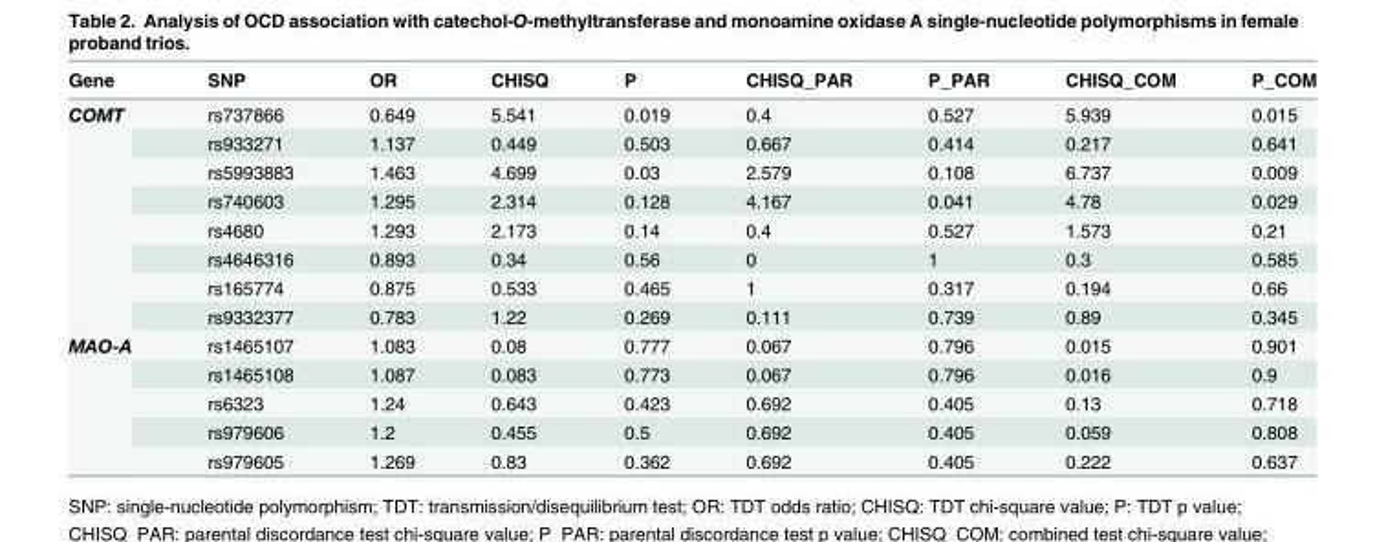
<table><thead><tr><td>Gene</td><td>SNP</td><td>OR</td><td>CHISQ</td><td>P</td><td>CHISQ_PAR</td><td>P_PAR</td><td>CHISQ_COM</td><td>P_COM</td></tr></thead><tbody><tr><td rowspan="8">COMT</td><td>rs737866</td><td>0.649</td><td>5.541</td><td>0.019</td><td>0.4</td><td>0.527</td><td>5.939</td><td>0.015</td></tr><tr><td>rs933271</td><td>1.137</td><td>0.449</td><td>0.503</td><td>0.667</td><td>0.414</td><td>0.217</td><td>0.641</td></tr><tr><td>rs5993883</td><td>1.463</td><td>4.699</td><td>0.03</td><td>2.579</td><td>0.108</td><td>6.737</td><td>0.009</td></tr><tr><td>rs740603</td><td>1.295</td><td>2.314</td><td>0.128</td><td>4.167</td><td>0.041</td><td>4.78</td><td>0.029</td></tr><tr><td>rs4680</td><td>1.293</td><td>2.173</td><td>0.14</td><td>0.4</td><td>0.527</td><td>1.573</td><td>0.21</td></tr><tr><td>rs4646316</td><td>0.893</td><td>0.34</td><td>0.56</td><td>0</td><td>1</td><td>0.3</td><td>0.585</td></tr><tr><td>rs165774</td><td>0.875</td><td>0.533</td><td>0.465</td><td>1</td><td>0.317</td><td>0.194</td><td>0.66</td></tr><tr><td>rs9332377</td><td>0.783</td><td>1.22</td><td>0.269</td><td>0.111</td><td>0.739</td><td>0.89</td><td>0.345</td></tr><tr><td rowspan="5">MAO-A</td><td>rs1465107</td><td>1.083</td><td>0.08</td><td>0.777</td><td>0.067</td><td>0.796</td><td>0.015</td><td>0.901</td></tr><tr><td>rs1465108</td><td>1.087</td><td>0.083</td><td>0.773</td><td>0.067</td><td>0.796</td><td>0.016</td><td>0.9</td></tr><tr><td>rs6323</td><td>1.24</td><td>0.643</td><td>0.423</td><td>0.692</td><td>0.405</td><td>0.13</td><td>0.718</td></tr><tr><td>rs979606</td><td>1.2</td><td>0.455</td><td>0.5</td><td>0.692</td><td>0.405</td><td>0.059</td><td>0.808</td></tr><tr><td>rs979605</td><td>1.269</td><td>0.83</td><td>0.362</td><td>0.692</td><td>0.405</td><td>0.222</td><td>0.637</td></tr></tbody></table>